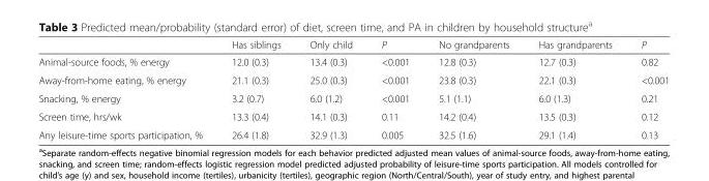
<table><thead><tr><td></td><td>Has siblings</td><td>Only child</td><td>P</td><td>No grandparents</td><td>Has grandparents</td><td>P</td></tr></thead><tbody><tr><td>Animal-source foods, % energy</td><td>12.0 (0.3)</td><td>13.4 (0.3)</td><td>&lt;0.001</td><td>12.8 (0.3)</td><td>12.7 (0.3)</td><td>0.82</td></tr><tr><td>Away-from-home eating, % energy</td><td>21.1 (0.3)</td><td>25.0 (0.3)</td><td>&lt;0.001</td><td>23.8 (0.3)</td><td>22.1 (0.3)</td><td>&lt;0.001</td></tr><tr><td>Snacking, % energy</td><td>3.2 (0.7)</td><td>6.0 (1.2)</td><td>&lt;0.001</td><td>5.1 (1.1)</td><td>6.0 (1.3)</td><td>0.21</td></tr><tr><td>Screen time, hrs/wk</td><td>13.3 (0.4)</td><td>14.1 (0.3)</td><td>0.11</td><td>14.2 (0.4)</td><td>13.5 (0.3)</td><td>0.12</td></tr><tr><td>Any leisure-time sports participation, %</td><td>26.4 (1.8)</td><td>32.9 (1.3)</td><td>0.005</td><td>32.5 (1.6)</td><td>29.1 (1.4)</td><td>0.13</td></tr></tbody></table>